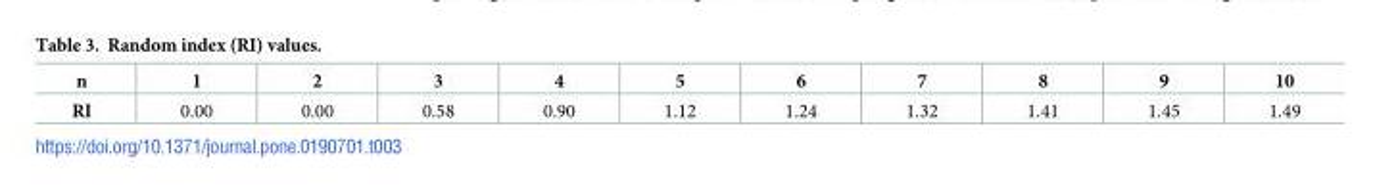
<table><thead><tr><td>n</td><td>1</td><td>2</td><td>3</td><td>4</td><td>5</td><td>6</td><td>7</td><td>8</td><td>9</td><td>10</td></tr></thead><tbody><tr><td>RI</td><td>0.00</td><td>0.00</td><td>0.58</td><td>0.90</td><td>1.12</td><td>1.24</td><td>1.32</td><td>1.41</td><td>1.45</td><td>1.49</td></tr></tbody></table>